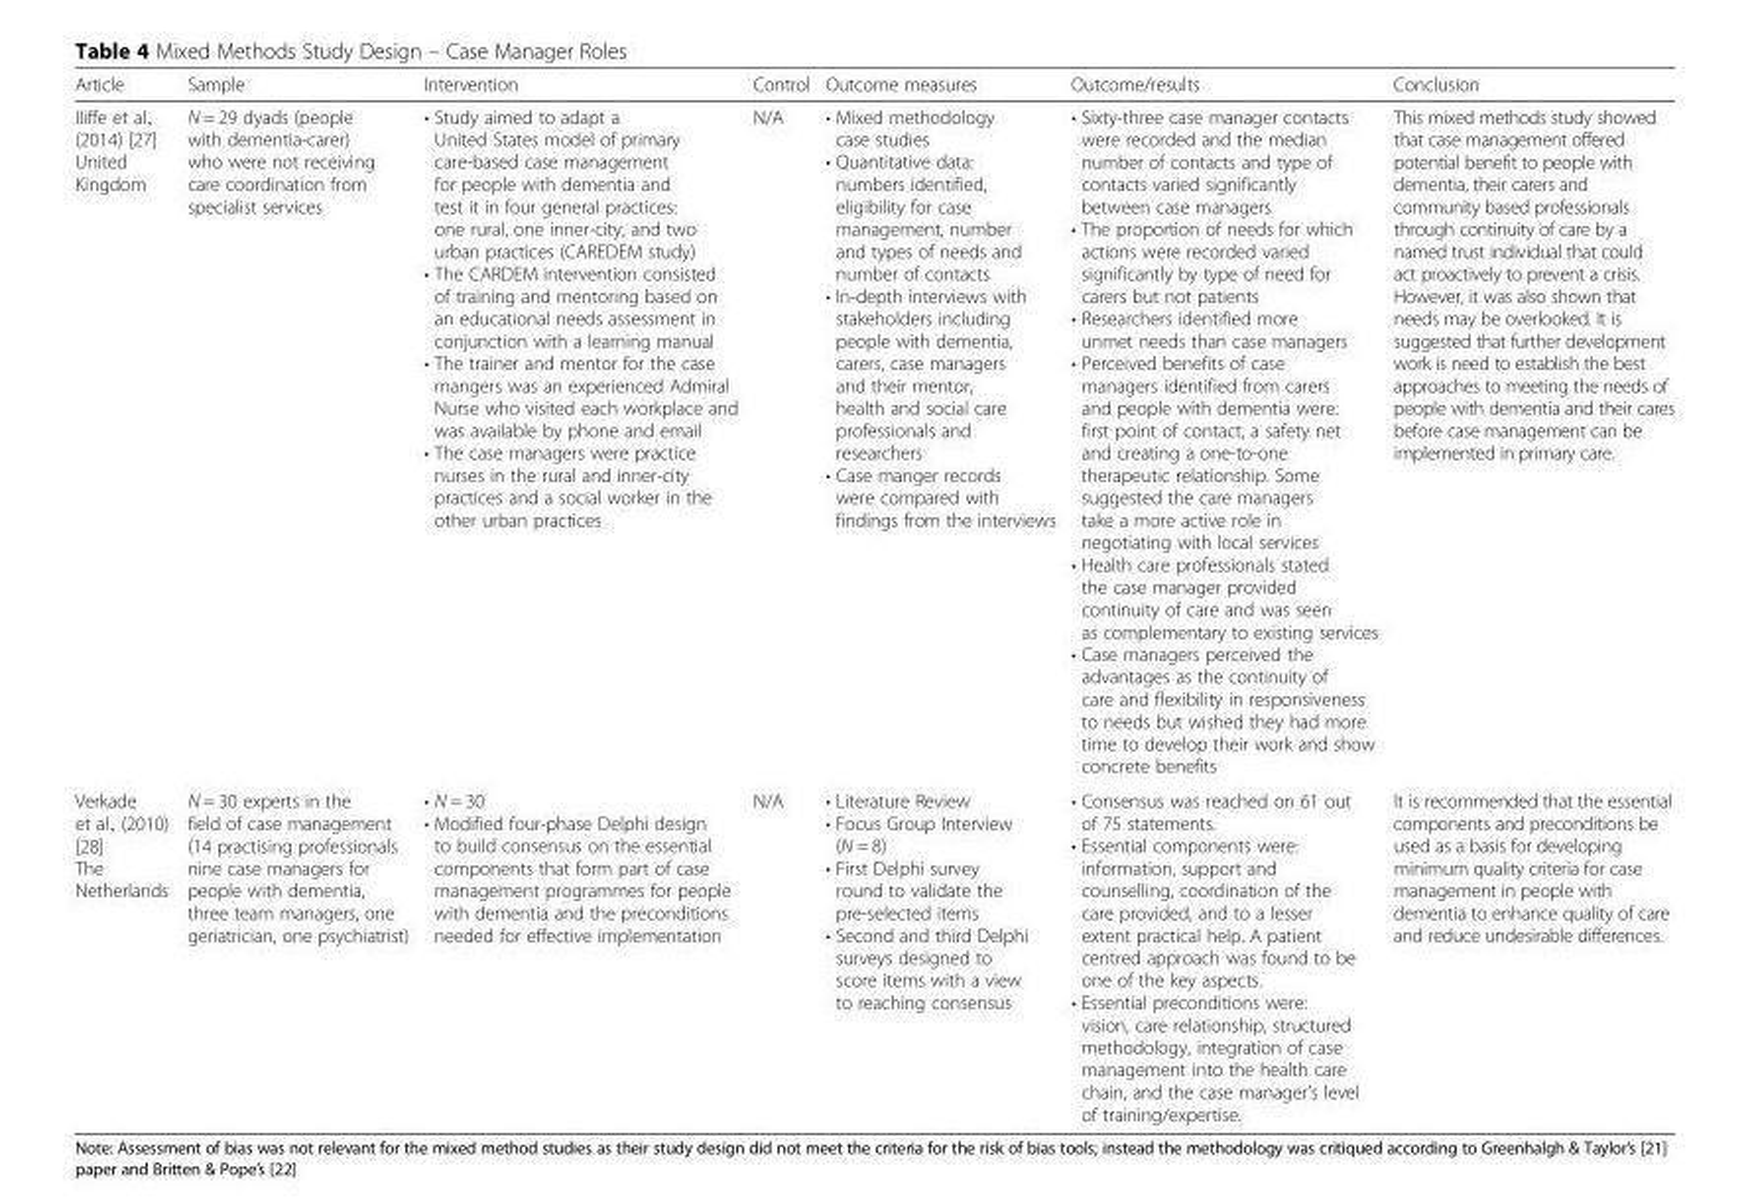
<table><thead><tr><td>Article</td><td>Sample</td><td>Intervention</td><td>Control</td><td>Outcome measures</td><td>Outcome/results</td><td>Conclusion</td></tr></thead><tbody><tr><td>Iliffe et al., (2014) [27] United Kingdom</td><td>N = 29 dyads (people with dementia-carer) who were not receiving care coordination from specialist services</td><td>• Study aimed to adapt a United States model of primary care-based case management for people with dementia and test it in four general practices: one rural, one inner-city, and two urban practices (CAREDEM study) • The CARDEM intervention consisted of training and mentoring based on an educational needs assessment in conjunction with a learning manual • The trainer and mentor for the case mangers was an experienced Admiral Nurse who visited each workplace and was available by phone and email • The case managers were practice nurses in the rural and inner-city practices and a social worker in the other urban practices</td><td>N/A</td><td>• Mixed methodology case studies • Quantitative data: numbers identified, eligibility for case management, number and types of needs and number of contacts • In-depth interviews with stakeholders including people with dementia, carers, case managers and their mentor, health and social care professionals and researchers • Case manger records were compared with findings from the interviews</td><td>• Sixty-three case manager contacts were recorded and the median number of contacts and type of contacts varied significantly between case managers • The proportion of needs for which actions were recorded varied significantly by type of need for carers but not patients • Researchers identified more unmet needs than case managers • Perceived benefits of case managers identified from carers and people with dementia were: first point of contact, a safety net and creating a one-to-one therapeutic relationship. Some suggested the care managers take a more active role in negotiating with local services • Health care professionals stated the case manager provided continuity of care and was seen as complementary to existing services • Case managers perceived the advantages as the continuity of care and flexibility in responsiveness to needs but wished they had more time to develop their work and show concrete benefits</td><td>This mixed methods study showed that case management offered potential benefit to people with dementia, their carers and community based professionals through continuity of care by a named trust individual that could act proactively to prevent a crisis. However, it was also shown that needs may be overlooked. It is suggested that further development work is need to establish the best approaches to meeting the needs of people with dementia and their cares before case management can be implemented in primary care.</td></tr><tr><td>Verkade et al., (2010) [28] The Netherlands</td><td>N = 30 experts in the field of case management (14 practising professionals nine case managers for people with dementia, three team managers, one geriatrician, one psychiatrist)</td><td>• N = 30 • Modified four-phase Delphi design to build consensus on the essential components that form part of case management programmes for people with dementia and the preconditions needed for effective implementation</td><td>N/A</td><td>• Literature Review • Focus Group Interview (N = 8) • First Delphi survey round to validate the pre-selected items • Second and third Delphi surveys designed to score items with a view to reaching consensus</td><td>• Consensus was reached on 61 out of 75 statements. • Essential components were: information, support and counselling, coordination of the care provided, and to a lesser extent practical help. A patient centred approach was found to be one of the key aspects. • Essential preconditions were: vision, care relationship, structured methodology, integration of case management into the health care chain, and the case manager’s level of training/expertise.</td><td>It is recommended that the essential components and preconditions be used as a basis for developing minimum quality criteria for case management in people with dementia to enhance quality of care and reduce undesirable differences.</td></tr></tbody></table>